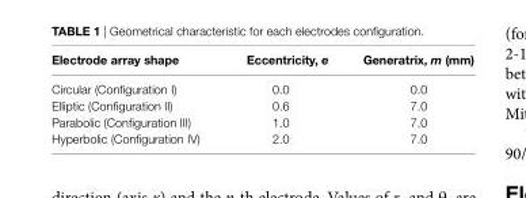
<table><thead><tr><td>electrode array shape</td><td>eccentricity, e</td><td>generatrix, m (mm)</td></tr></thead><tbody><tr><td>Circular (Configuration I)</td><td>0.0</td><td>0.0</td></tr><tr><td>Elliptic (Configuration II)</td><td>0.6</td><td>7.0</td></tr><tr><td>Parabolic (Configuration III)</td><td>1.0</td><td>7.0</td></tr><tr><td>Hyperbolic (Configuration IV)</td><td>2.0</td><td>7.0</td></tr></tbody></table>